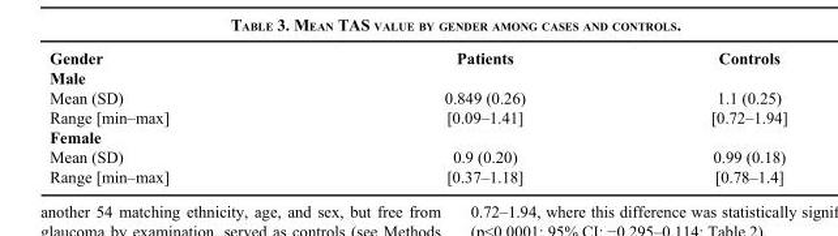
<table><thead><tr><td>Gender</td><td>Patients</td><td>Controls</td></tr></thead><tbody><tr><td colspan="3">Male</td></tr><tr><td>Mean (SD)</td><td>0.849 (0.26)</td><td>1.1 (0.25)</td></tr><tr><td>Range [min–max]</td><td>[0.09–1.41]</td><td>[0.72–1.94]</td></tr><tr><td colspan="3">Female</td></tr><tr><td>Mean (SD)</td><td>0.9 (0.20)</td><td>0.99 (0.18)</td></tr><tr><td>Range [min–max]</td><td>[0.37–1.18]</td><td>[0.78–1.4]</td></tr></tbody></table>